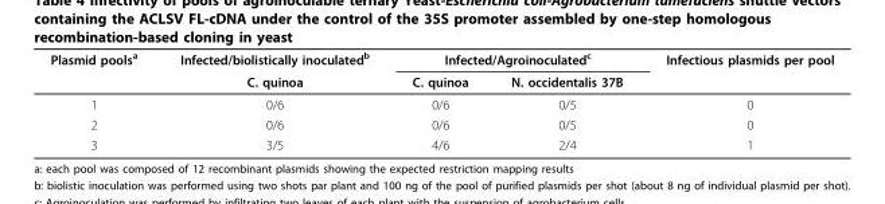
<table><thead><tr><td rowspan="2">Plasmid pools<sup>a</sup></td><td rowspan="2">Infected/biolistically inoculated<sup>b</sup> C. quinoa</td><td colspan="2">Infected/Agroinoculated<sup>c</sup></td><td rowspan="2">Infectious plasmids per pool</td></tr><tr><td>C. quinoa</td><td>N. occidentalis 37B</td></tr></thead><tbody><tr><td>1</td><td>0/6</td><td>0/6</td><td>0/5</td><td>0</td></tr><tr><td>2</td><td>0/6</td><td>0/6</td><td>0/5</td><td>0</td></tr><tr><td>3</td><td>3/5</td><td>4/6</td><td>2/4</td><td>1</td></tr></tbody></table>